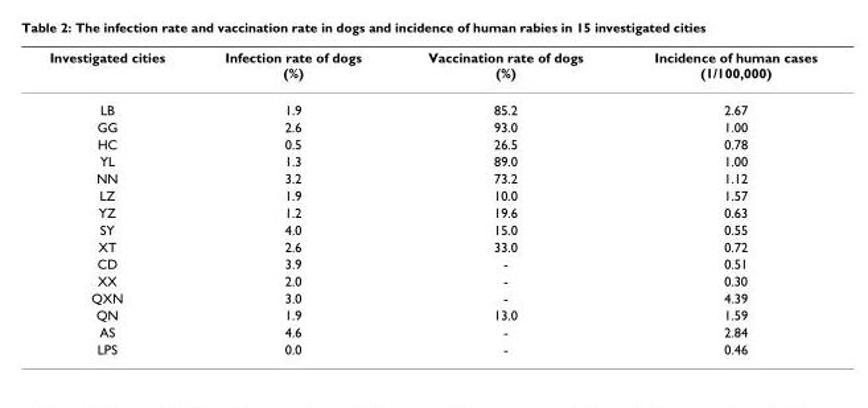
<table><thead><tr><td>Investigated cities</td><td>Infection rate of dogs (%)</td><td>Vaccination rate of dogs (%)</td><td>Incidence of human cases (1/100,000)</td></tr></thead><tbody><tr><td>LB</td><td>1.9</td><td>85.2</td><td>2.67</td></tr><tr><td>GG</td><td>2.6</td><td>93.0</td><td>1.00</td></tr><tr><td>HC</td><td>0.5</td><td>26.5</td><td>0.78</td></tr><tr><td>YL</td><td>1.3</td><td>89.0</td><td>1.00</td></tr><tr><td>NN</td><td>3.2</td><td>73.2</td><td>1.12</td></tr><tr><td>LZ</td><td>1.9</td><td>10.0</td><td>1.57</td></tr><tr><td>YZ</td><td>1.2</td><td>19.6</td><td>0.63</td></tr><tr><td>SY</td><td>4.0</td><td>15.0</td><td>0.55</td></tr><tr><td>XT</td><td>2.6</td><td>33.0</td><td>0.72</td></tr><tr><td>CD</td><td>3.9</td><td>-</td><td>0.51</td></tr><tr><td>XX</td><td>2.0</td><td>-</td><td>0.30</td></tr><tr><td>QXN</td><td>3.0</td><td>-</td><td>4.39</td></tr><tr><td>QN</td><td>1.9</td><td>13.0</td><td>1.59</td></tr><tr><td>AS</td><td>4.6</td><td>-</td><td>2.84</td></tr><tr><td>LPS</td><td>0.0</td><td>-</td><td>0.46</td></tr></tbody></table>